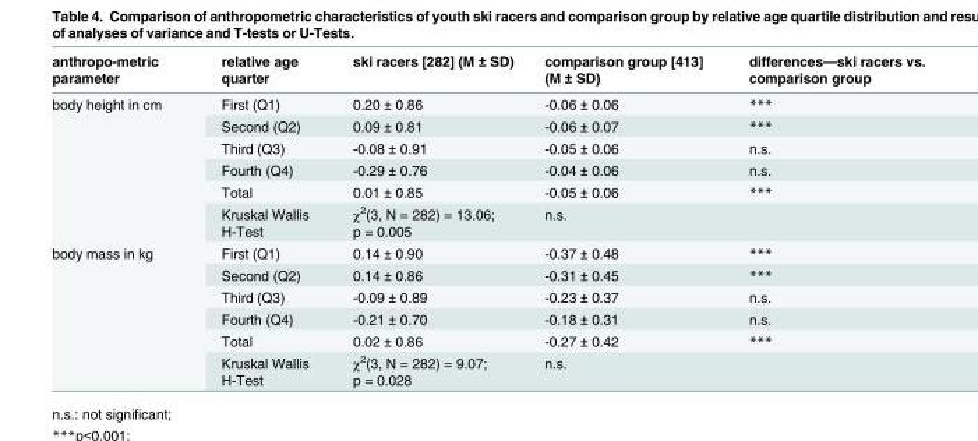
<table><thead><tr><td>anthropo-metric parameter</td><td>relative age quarter</td><td>ski racers [282] (M ± SD)</td><td>comparison group [413] (M ± SD)</td><td>differences—ski racers vs. comparison group</td></tr></thead><tbody><tr><td rowspan="6">body height in cm</td><td>First (Q1)</td><td>0.20 ± 0.86</td><td>-0.06 ± 0.06</td><td>***</td></tr><tr><td>Second (Q2)</td><td>0.09 ± 0.81</td><td>-0.06 ± 0.07</td><td>***</td></tr><tr><td>Third (Q3)</td><td>-0.08 ± 0.91</td><td>-0.05 ± 0.06</td><td>n.s.</td></tr><tr><td>Fourth (Q4)</td><td>-0.29 ± 0.76</td><td>-0.04 ± 0.06</td><td>n.s.</td></tr><tr><td>Total</td><td>0.01 ± 0.85</td><td>-0.05 ± 0.06</td><td>***</td></tr><tr><td>Kruskal Wallis H-Test</td><td>χ<sup>2</sup>(3, N = 282) = 13.06; p = 0.005</td><td>n.s.</td><td></td></tr><tr><td rowspan="6">body mass in kg</td><td>First (Q1)</td><td>0.14 ± 0.90</td><td>-0.37 ± 0.48</td><td>***</td></tr><tr><td>Second (Q2)</td><td>0.14 ± 0.86</td><td>-0.31 ± 0.45</td><td>***</td></tr><tr><td>Third (Q3)</td><td>-0.09 ± 0.89</td><td>-0.23 ± 0.37</td><td>n.s.</td></tr><tr><td>Fourth (Q4)</td><td>-0.21 ± 0.70</td><td>-0.18 ± 0.31</td><td>n.s.</td></tr><tr><td>Total</td><td>0.02 ± 0.86</td><td>-0.27 ± 0.42</td><td>***</td></tr><tr><td>Kruskal Wallis H-Test</td><td>χ<sup>2</sup>(3, N = 282) = 9.07; p = 0.028</td><td>n.s.</td><td></td></tr></tbody></table>